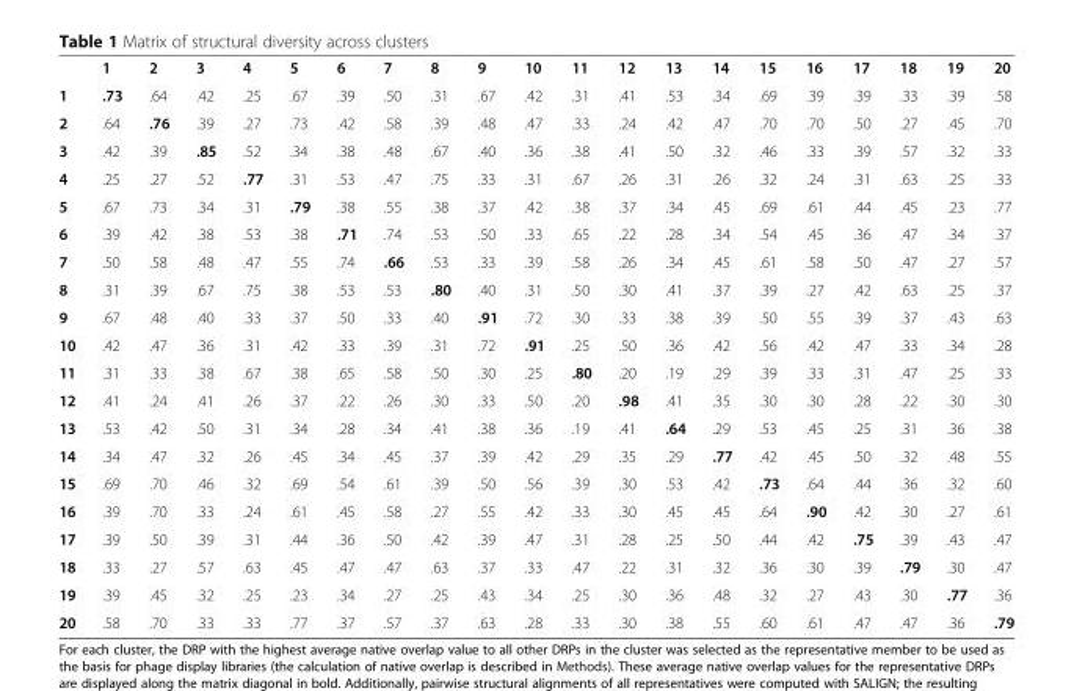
<table><thead><tr><td></td><td>1</td><td>2</td><td>3</td><td>4</td><td>5</td><td>6</td><td>7</td><td>8</td><td>9</td><td>10</td><td>11</td><td>12</td><td>13</td><td>14</td><td>15</td><td>16</td><td>17</td><td>18</td><td>19</td><td>20</td></tr></thead><tbody><tr><td>1</td><td>.73</td><td>.64</td><td>.42</td><td>.25</td><td>.67</td><td>.39</td><td>.50</td><td>.31</td><td>.67</td><td>.42</td><td>.31</td><td>.41</td><td>.53</td><td>.34</td><td>.69</td><td>.39</td><td>.39</td><td>.33</td><td>.39</td><td>.58</td></tr><tr><td>2</td><td>.64</td><td>.76</td><td>.39</td><td>.27</td><td>.73</td><td>.42</td><td>.58</td><td>.39</td><td>.48</td><td>.47</td><td>.33</td><td>.24</td><td>.42</td><td>.47</td><td>.70</td><td>.70</td><td>.50</td><td>.27</td><td>.45</td><td>.70</td></tr><tr><td>3</td><td>.42</td><td>.39</td><td>.85</td><td>.52</td><td>.34</td><td>.38</td><td>.48</td><td>.67</td><td>.40</td><td>.36</td><td>.38</td><td>.41</td><td>.50</td><td>.32</td><td>.46</td><td>.33</td><td>.39</td><td>.57</td><td>.32</td><td>.33</td></tr><tr><td>4</td><td>.25</td><td>.27</td><td>.52</td><td>.77</td><td>.31</td><td>.53</td><td>.47</td><td>.75</td><td>.33</td><td>.31</td><td>.67</td><td>.26</td><td>.31</td><td>.26</td><td>.32</td><td>.24</td><td>.31</td><td>.63</td><td>.25</td><td>.33</td></tr><tr><td>5</td><td>.67</td><td>.73</td><td>.34</td><td>.31</td><td>.79</td><td>.38</td><td>.55</td><td>.38</td><td>.37</td><td>.42</td><td>.38</td><td>.37</td><td>.34</td><td>.45</td><td>.69</td><td>.61</td><td>.44</td><td>.45</td><td>.23</td><td>.77</td></tr><tr><td>6</td><td>.39</td><td>.42</td><td>.38</td><td>.53</td><td>.38</td><td>.71</td><td>.74</td><td>.53</td><td>.50</td><td>.33</td><td>.65</td><td>.22</td><td>.28</td><td>.34</td><td>.54</td><td>.45</td><td>.36</td><td>.47</td><td>.34</td><td>.37</td></tr><tr><td>7</td><td>.50</td><td>.58</td><td>.48</td><td>.47</td><td>.55</td><td>.74</td><td>.66</td><td>.53</td><td>.33</td><td>.39</td><td>.58</td><td>.26</td><td>.34</td><td>.45</td><td>.61</td><td>.58</td><td>.50</td><td>.47</td><td>.27</td><td>.57</td></tr><tr><td>8</td><td>.31</td><td>.39</td><td>.67</td><td>.75</td><td>.38</td><td>.53</td><td>.53</td><td>.80</td><td>.40</td><td>.31</td><td>.50</td><td>.30</td><td>.41</td><td>.37</td><td>.39</td><td>.27</td><td>.42</td><td>.63</td><td>.25</td><td>.37</td></tr><tr><td>9</td><td>.67</td><td>.48</td><td>.40</td><td>.33</td><td>.37</td><td>.50</td><td>.33</td><td>.40</td><td>.91</td><td>.72</td><td>.30</td><td>.33</td><td>.38</td><td>.39</td><td>.50</td><td>.55</td><td>.39</td><td>.37</td><td>.43</td><td>.63</td></tr><tr><td>10</td><td>.42</td><td>.47</td><td>.36</td><td>.31</td><td>.42</td><td>.33</td><td>.39</td><td>.31</td><td>.72</td><td>.91</td><td>.25</td><td>.50</td><td>.36</td><td>.42</td><td>.56</td><td>.42</td><td>.47</td><td>.33</td><td>.34</td><td>.28</td></tr><tr><td>11</td><td>.31</td><td>.33</td><td>.38</td><td>.67</td><td>.38</td><td>.65</td><td>.58</td><td>.50</td><td>.30</td><td>.25</td><td>.80</td><td>.20</td><td>.19</td><td>.29</td><td>.39</td><td>.33</td><td>.31</td><td>.47</td><td>.25</td><td>.33</td></tr><tr><td>12</td><td>.41</td><td>.24</td><td>.41</td><td>.26</td><td>.37</td><td>.22</td><td>.26</td><td>.30</td><td>.33</td><td>.50</td><td>.20</td><td>.98</td><td>.41</td><td>.35</td><td>.30</td><td>.30</td><td>.28</td><td>.22</td><td>.30</td><td>.30</td></tr><tr><td>13</td><td>.53</td><td>.42</td><td>.50</td><td>.31</td><td>.34</td><td>.28</td><td>.34</td><td>.41</td><td>.38</td><td>.36</td><td>.19</td><td>.41</td><td>.64</td><td>.29</td><td>.53</td><td>.45</td><td>.25</td><td>.31</td><td>.36</td><td>.38</td></tr><tr><td>14</td><td>.34</td><td>.47</td><td>.32</td><td>.26</td><td>.45</td><td>.34</td><td>.45</td><td>.37</td><td>.39</td><td>.42</td><td>.29</td><td>.35</td><td>.29</td><td>.77</td><td>.42</td><td>.45</td><td>.50</td><td>.32</td><td>.48</td><td>.55</td></tr><tr><td>15</td><td>.69</td><td>.70</td><td>.46</td><td>.32</td><td>.69</td><td>.54</td><td>.61</td><td>.39</td><td>.50</td><td>.56</td><td>.39</td><td>.30</td><td>.53</td><td>.42</td><td>.73</td><td>.64</td><td>.44</td><td>.36</td><td>.32</td><td>.60</td></tr><tr><td>16</td><td>.39</td><td>.70</td><td>.33</td><td>.24</td><td>.61</td><td>.45</td><td>.58</td><td>.27</td><td>.55</td><td>.42</td><td>.33</td><td>.30</td><td>.45</td><td>.45</td><td>.64</td><td>.90</td><td>.42</td><td>.30</td><td>.27</td><td>.61</td></tr><tr><td>17</td><td>.39</td><td>.50</td><td>.39</td><td>.31</td><td>.44</td><td>.36</td><td>.50</td><td>.42</td><td>.39</td><td>.47</td><td>.31</td><td>.28</td><td>.25</td><td>.50</td><td>.44</td><td>.42</td><td>.75</td><td>.39</td><td>.43</td><td>.47</td></tr><tr><td>18</td><td>.33</td><td>.27</td><td>.57</td><td>.63</td><td>.45</td><td>.47</td><td>.47</td><td>.63</td><td>.37</td><td>.33</td><td>.47</td><td>.22</td><td>.31</td><td>.32</td><td>.36</td><td>.30</td><td>.39</td><td>.79</td><td>.30</td><td>.47</td></tr><tr><td>19</td><td>.39</td><td>.45</td><td>.32</td><td>.25</td><td>.23</td><td>.34</td><td>.27</td><td>.25</td><td>.43</td><td>.34</td><td>.25</td><td>.30</td><td>.36</td><td>.48</td><td>.32</td><td>.27</td><td>.43</td><td>.30</td><td>.77</td><td>.36</td></tr><tr><td>20</td><td>.58</td><td>.70</td><td>.33</td><td>.33</td><td>.77</td><td>.37</td><td>.57</td><td>.37</td><td>.63</td><td>.28</td><td>.33</td><td>.30</td><td>.38</td><td>.55</td><td>.60</td><td>.61</td><td>.47</td><td>.47</td><td>.36</td><td>.79</td></tr></tbody></table>